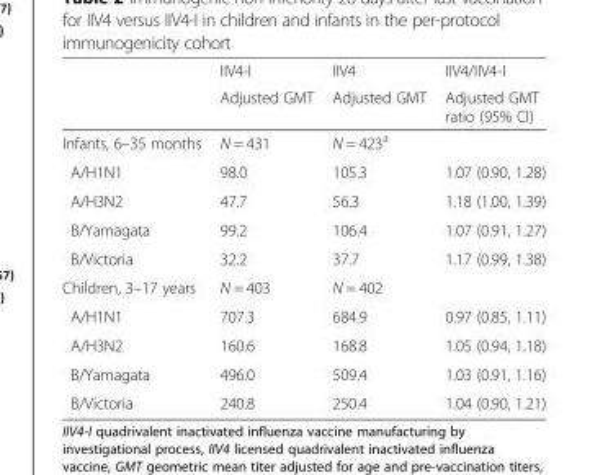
<table><thead><tr><td rowspan="2"></td><td rowspan="2">IIV4-I Adjusted GMT</td><td rowspan="2">IIV4 Adjusted GMT</td><td rowspan="2">IIV4/IIV4-I Adjusted GMT ratio (95% CI)</td></tr><tr></tr></thead><tbody><tr><td>Infants, 6–35 months</td><td>N = 431</td><td>N = 423<sup>a</sup></td><td></td></tr><tr><td>A/H1N1</td><td>98.0</td><td>105.3</td><td>1.07 (0.90, 1.28)</td></tr><tr><td>A/H3N2</td><td>47.7</td><td>56.3</td><td>1.18 (1.00, 1.39)</td></tr><tr><td>B/Yamagata</td><td>99.2</td><td>106.4</td><td>1.07 (0.91, 1.27)</td></tr><tr><td>B/Victoria</td><td>32.2</td><td>37.7</td><td>1.17 (0.99, 1.38)</td></tr><tr><td>Children, 3–17 years</td><td>N = 403</td><td>N = 402</td><td></td></tr><tr><td>A/H1N1</td><td>707.3</td><td>684.9</td><td>0.97 (0.85, 1.11)</td></tr><tr><td>A/H3N2</td><td>160.6</td><td>168.8</td><td>1.05 (0.94, 1.18)</td></tr><tr><td>B/Yamagata</td><td>496.0</td><td>509.4</td><td>1.03 (0.91, 1.16)</td></tr><tr><td>B/Victoria</td><td>240.8</td><td>250.4</td><td>1.04 (0.90, 1.21)</td></tr></tbody></table>